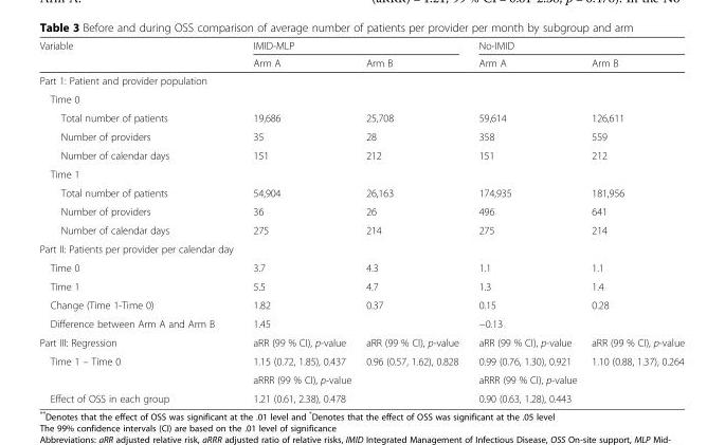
<table><thead><tr><td rowspan="2">Variable</td><td colspan="2">IMID-MLP</td><td colspan="2">No-IMID</td></tr><tr><td>Arm A</td><td>Arm B</td><td>Arm A</td><td>Arm B</td></tr></thead><tbody><tr><td colspan="5">Part 1: Patient and provider population</td></tr><tr><td colspan="5">Time 0</td></tr><tr><td>Total number of patients</td><td>19,686</td><td>25,708</td><td>59,614</td><td>126,611</td></tr><tr><td>Number of providers</td><td>35</td><td>28</td><td>358</td><td>559</td></tr><tr><td>Number of calendar days</td><td>151</td><td>212</td><td>151</td><td>212</td></tr><tr><td colspan="5">Time 1</td></tr><tr><td>Total number of patients</td><td>54,904</td><td>26,163</td><td>174,935</td><td>181,956</td></tr><tr><td>Number of providers</td><td>36</td><td>26</td><td>496</td><td>641</td></tr><tr><td>Number of calendar days</td><td>275</td><td>214</td><td>275</td><td>214</td></tr><tr><td colspan="5">Part II: Patients per provider per calendar day</td></tr><tr><td>Time 0</td><td>3.7</td><td>4.3</td><td>1.1</td><td>1.1</td></tr><tr><td>Time 1</td><td>5.5</td><td>4.7</td><td>1.3</td><td>1.4</td></tr><tr><td>Change (Time 1-Time 0)</td><td>1.82</td><td>0.37</td><td>0.15</td><td>0.28</td></tr><tr><td>Difference between Arm A and Arm B</td><td colspan="2">1.45</td><td colspan="2">−0.13</td></tr><tr><td>Part III: Regression</td><td>aRR (99 % CI), p-value</td><td>aRR (99 % CI), p-value</td><td>aRR (99 % CI), p-value</td><td>aRR (99 % CI), p-value</td></tr><tr><td rowspan="2">Time 1 – Time 0</td><td>1.15 (0.72, 1.85), 0.437</td><td>0.96 (0.57, 1.62), 0.828</td><td>0.99 (0.76, 1.30), 0.921</td><td>1.10 (0.88, 1.37), 0.264</td></tr><tr><td colspan="2">aRRR (99 % CI), p-value</td><td colspan="2">aRRR (99 % CI), p-value</td></tr><tr><td>Effect of OSS in each group</td><td colspan="2">1.21 (0.61, 2.38), 0.478</td><td colspan="2">0.90 (0.63, 1.28), 0.443</td></tr></tbody></table>